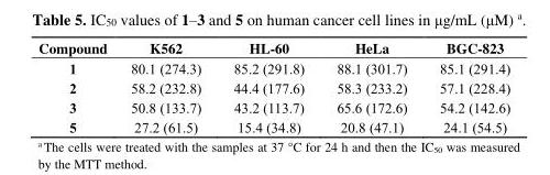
<table><thead><tr><td>Compound</td><td>K562</td><td>HL-60</td><td>HeLa</td><td>BGC-823</td></tr></thead><tbody><tr><td>1</td><td>80.1 (274.3)</td><td>85.2 (291.8)</td><td>88.1 (301.7)</td><td>85.1 (291.4)</td></tr><tr><td>2</td><td>58.2 (232.8)</td><td>44.4 (177.6)</td><td>58.3 (233.2)</td><td>57.1 (228.4)</td></tr><tr><td>3</td><td>50.8 (133.7)</td><td>43.2 (113.7)</td><td>65.6 (172.6)</td><td>54.2 (142.6)</td></tr><tr><td>5</td><td>27.2 (61.5)</td><td>15.4 (34.8)</td><td>20.8 (47.1)</td><td>24.1 (54.5)</td></tr></tbody></table>